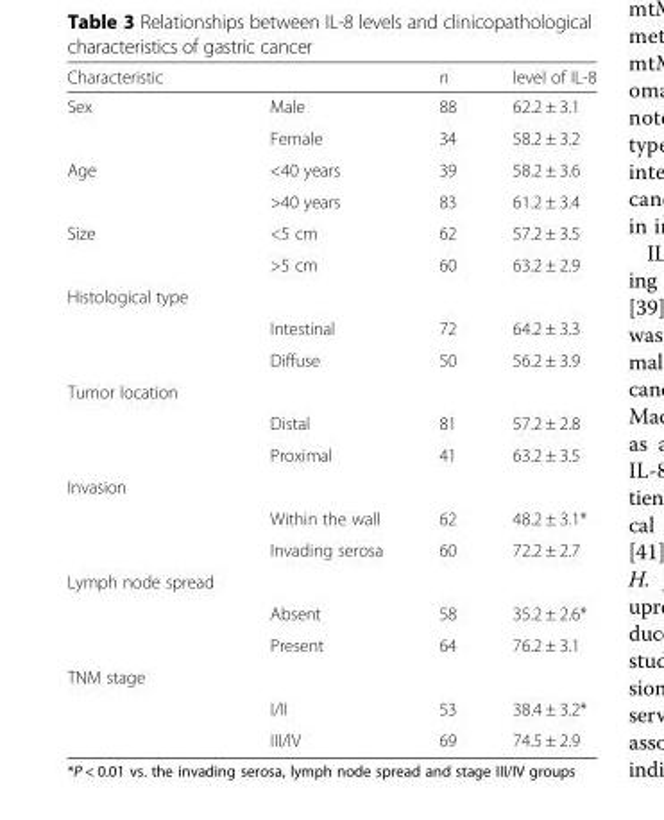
<table><thead><tr><td colspan="2">Characteristic</td><td rowspan="2">n 88</td><td rowspan="2">level of IL-8 62.2 ± 3.1</td></tr><tr><td>Sex</td><td>Male</td></tr></thead><tbody><tr><td></td><td>Female</td><td>34</td><td>58.2 ± 3.2</td></tr><tr><td rowspan="2">Age</td><td>&lt;40 years</td><td>39</td><td>58.2 ± 3.6</td></tr><tr><td>&gt;40 years</td><td>83</td><td>61.2 ± 3.4</td></tr><tr><td rowspan="2">Size</td><td>&lt;5 cm</td><td>62</td><td>57.2 ± 3.5</td></tr><tr><td>&gt;5 cm</td><td>60</td><td>63.2 ± 2.9</td></tr><tr><td colspan="4">Histological type</td></tr><tr><td></td><td>Intestinal</td><td>72</td><td>64.2 ± 3.3</td></tr><tr><td></td><td>Diffuse</td><td>50</td><td>56.2 ± 3.9</td></tr><tr><td colspan="4">Tumor location</td></tr><tr><td></td><td>Distal</td><td>81</td><td>57.2 ± 2.8</td></tr><tr><td></td><td>Proximal</td><td>41</td><td>63.2 ± 3.5</td></tr><tr><td colspan="4">Invasion</td></tr><tr><td></td><td>Within the wall</td><td>62</td><td>48.2 ± 3.1*</td></tr><tr><td></td><td>Invading serosa</td><td>60</td><td>72.2 ± 2.7</td></tr><tr><td colspan="4">Lymph node spread</td></tr><tr><td></td><td>Absent</td><td>58</td><td>35.2 ± 2.6*</td></tr><tr><td></td><td>Present</td><td>64</td><td>76.2 ± 3.1</td></tr><tr><td colspan="4">TNM stage</td></tr><tr><td></td><td>I/II</td><td>53</td><td>38.4 ± 3.2*</td></tr><tr><td></td><td>III/IV</td><td>69</td><td>74.5 ± 2.9</td></tr></tbody></table>